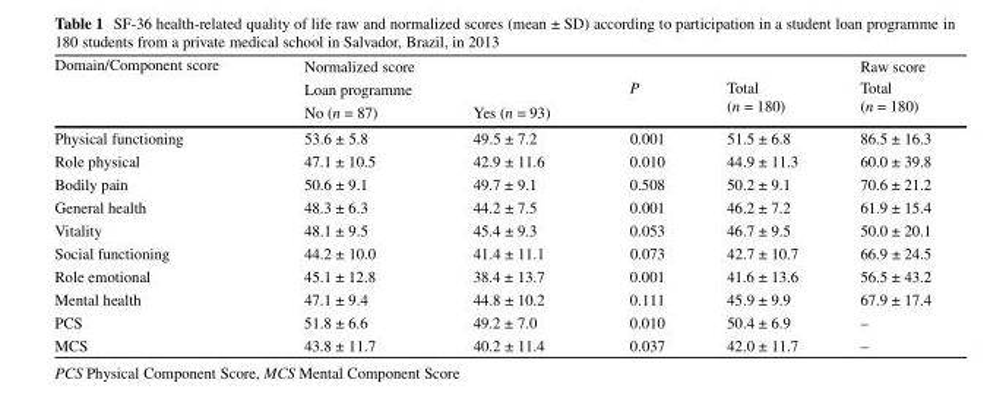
<table><thead><tr><td rowspan="3">Domain/Component score</td><td colspan="4">Normalized score</td><td rowspan="3">Raw score Total (n = 180)</td></tr><tr><td colspan="2">Loan programme</td><td rowspan="2">P</td><td rowspan="2">Total (n = 180)</td></tr><tr><td>No (n = 87)</td><td>Yes (n = 93)</td></tr></thead><tbody><tr><td>Physical functioning</td><td>53.6 ± 5.8</td><td>49.5 ± 7.2</td><td>0.001</td><td>51.5 ± 6.8</td><td>86.5 ± 16.3</td></tr><tr><td>Role physical</td><td>47.1 ± 10.5</td><td>42.9 ± 11.6</td><td>0.010</td><td>44.9 ± 11.3</td><td>60.0 ± 39.8</td></tr><tr><td>Bodily pain</td><td>50.6 ± 9.1</td><td>49.7 ± 9.1</td><td>0.508</td><td>50.2 ± 9.1</td><td>70.6 ± 21.2</td></tr><tr><td>General health</td><td>48.3 ± 6.3</td><td>44.2 ± 7.5</td><td>0.001</td><td>46.2 ± 7.2</td><td>61.9 ± 15.4</td></tr><tr><td>Vitality</td><td>48.1 ± 9.5</td><td>45.4 ± 9.3</td><td>0.053</td><td>46.7 ± 9.5</td><td>50.0 ± 20.1</td></tr><tr><td>Social functioning</td><td>44.2 ± 10.0</td><td>41.4 ± 11.1</td><td>0.073</td><td>42.7 ± 10.7</td><td>66.9 ± 24.5</td></tr><tr><td>Role emotional</td><td>45.1 ± 12.8</td><td>38.4 ± 13.7</td><td>0.001</td><td>41.6 ± 13.6</td><td>56.5 ± 43.2</td></tr><tr><td>Mental health</td><td>47.1 ± 9.4</td><td>44.8 ± 10.2</td><td>0.111</td><td>45.9 ± 9.9</td><td>67.9 ± 17.4</td></tr><tr><td>PCS</td><td>51.8 ± 6.6</td><td>49.2 ± 7.0</td><td>0.010</td><td>50.4 ± 6.9</td><td>–</td></tr><tr><td>MCS</td><td>43.8 ± 11.7</td><td>40.2 ± 11.4</td><td>0.037</td><td>42.0 ± 11.7</td><td>–</td></tr></tbody></table>